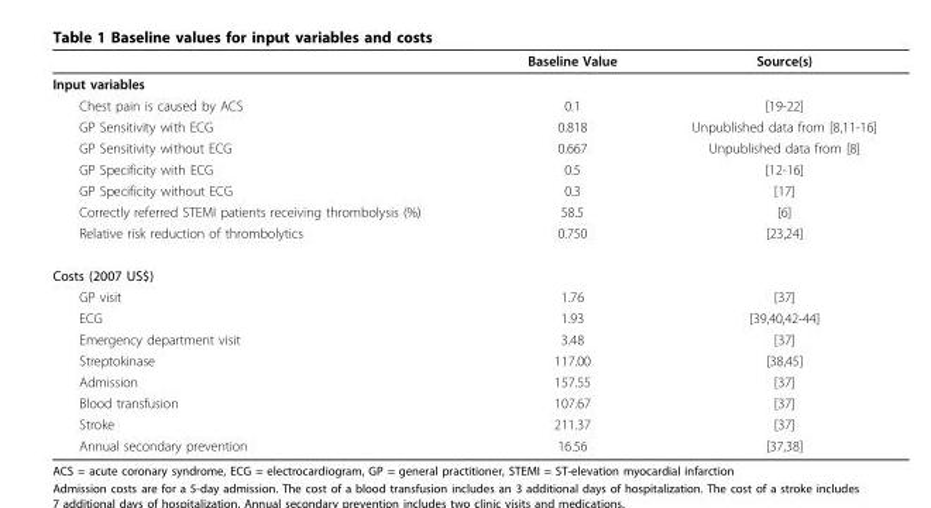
<table><thead><tr><td></td><td>Baseline Value</td><td>Source(s)</td></tr></thead><tbody><tr><td colspan="3">Input variables</td></tr><tr><td>Chest pain is caused by ACS</td><td>0.1</td><td>[19-22]</td></tr><tr><td>GP Sensitivity with ECG</td><td>0.818</td><td>Unpublished data from [8,11-16]</td></tr><tr><td>GP Sensitivity without ECG</td><td>0.667</td><td>Unpublished data from [8]</td></tr><tr><td>GP Specificity with ECG</td><td>0.5</td><td>[12-16]</td></tr><tr><td>GP Specificity without ECG</td><td>0.3</td><td>[17]</td></tr><tr><td>Correctly referred STEMI patients receiving thrombolysis (%)</td><td>58.5</td><td>[6]</td></tr><tr><td>Relative risk reduction of thrombolytics</td><td>0.750</td><td>[23,24]</td></tr><tr><td colspan="3">Costs (2007 US$)</td></tr><tr><td>GP visit</td><td>1.76</td><td>[37]</td></tr><tr><td>ECG</td><td>1.93</td><td>[39,40,42-44]</td></tr><tr><td>Emergency department visit</td><td>3.48</td><td>[37]</td></tr><tr><td>Streptokinase</td><td>117.00</td><td>[38,45]</td></tr><tr><td>Admission</td><td>157.55</td><td>[37]</td></tr><tr><td>Blood transfusion</td><td>107.67</td><td>[37]</td></tr><tr><td>Stroke</td><td>211.37</td><td>[37]</td></tr><tr><td>Annual secondary prevention</td><td>16.56</td><td>[37,38]</td></tr></tbody></table>